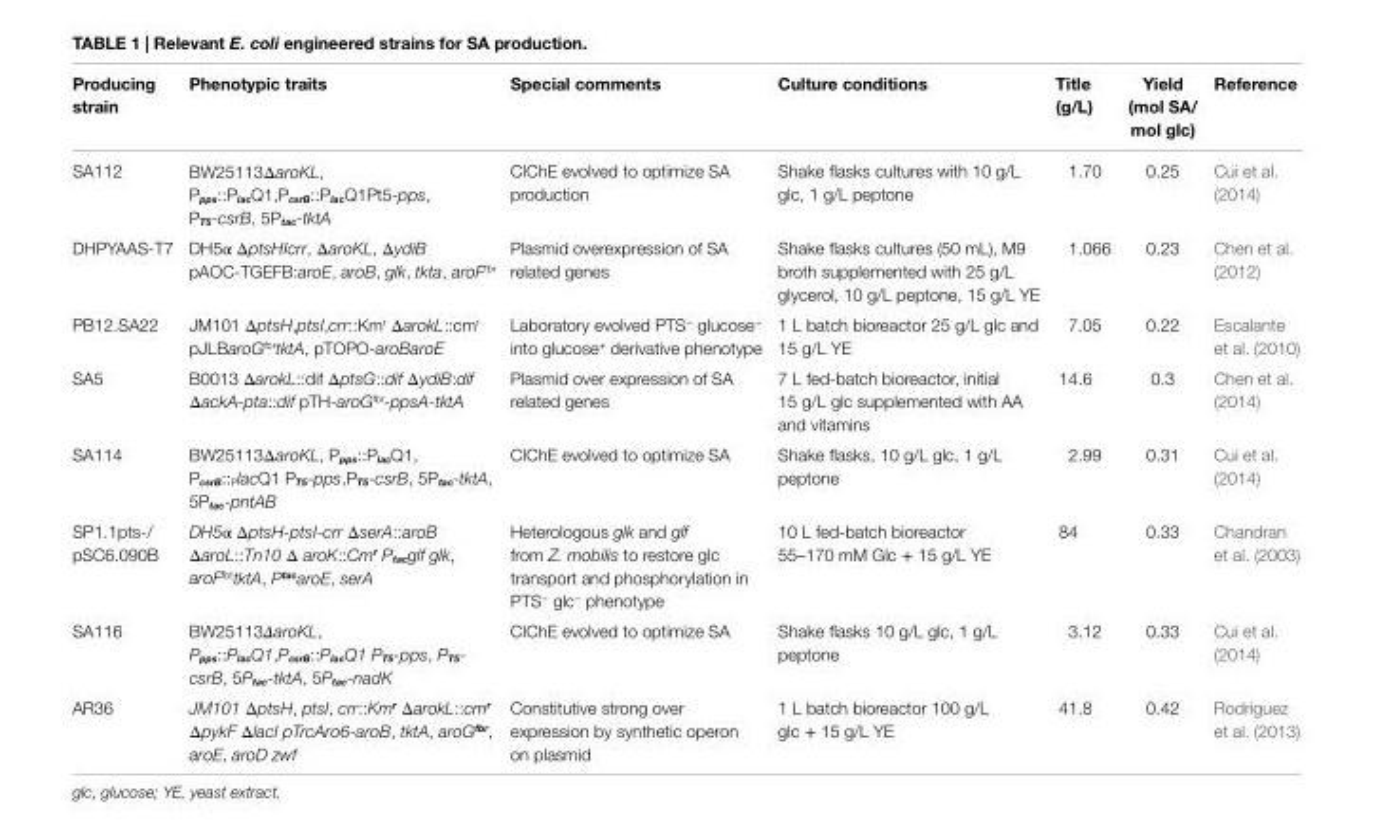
<table><thead><tr><td>Producing strain</td><td>Phenotypic traits</td><td>Special comments</td><td>Culture conditions</td><td>Title (g/L)</td><td>Yield (mol SA/ mol glc)</td><td>Reference</td></tr></thead><tbody><tr><td>SA112</td><td>BW25113ΔaroKL, P<sub>pps</sub>::P<sub>lac</sub>Q1,P<sub>csrB</sub>::P<sub>lac</sub>Q1Pt5-pps, P<sub>T5</sub>-csrB, 5P<sub>tac</sub>-tktA</td><td>CIChE evolved to optimize SA production</td><td>Shake flasks cultures with 10 g/L glc, 1 g/L peptone</td><td>1.70</td><td>0.25</td><td>Cui et al. (2014)</td></tr><tr><td>DHPYAAS-T7</td><td>DH5α ΔptsHIcrr, ΔaroKL, ΔydiB pAOC-TGEFB:aroE, aroB, glk, tkta, aroF<sup>fbr</sup></td><td>Plasmid overexpression of SA related genes</td><td>Shake flasks cultures (50 mL), M9 broth supplemented with 25 g/L glycerol, 10 g/L peptone, 15 g/L YE</td><td>1.066</td><td>0.23</td><td>Chen et al. (2012)</td></tr><tr><td>PB12.SA22</td><td>JM101 ΔptsH,ptsI,crr::Km<sup>r</sup> ΔarokL::cm<sup>r</sup> pJLBaroG<sup>fbr</sup>tktA, pTOPO-aroBaroE</td><td>Laboratory evolved PTS<sup>−</sup> glucose<sup>−</sup> into glucose<sup>+</sup> derivative phenotype</td><td>1 L batch bioreactor 25 g/L glc and 15 g/L YE</td><td>7.05</td><td>0.22</td><td>Escalante et al. (2010)</td></tr><tr><td>SA5</td><td>B0013 ΔarokL::dif ΔptsG::dif ΔydiB:dif ΔackA-pta::dif pTH-aroG<sup>fbr</sup>-ppsA-tktA</td><td>Plasmid over expression of SA related genes</td><td>7 L fed-batch bioreactor, initial 15 g/L glc supplemented with AA and vitamins</td><td>14.6</td><td>0.3</td><td>Chen et al. (2014)</td></tr><tr><td>SA114</td><td>BW25113ΔaroKL, P<sub>pps</sub>::P<sub>lac</sub>Q1, P<sub>csrB</sub>::<sub>P</sub>lacQ1 P<sub>T5</sub>-pps,P<sub>T5</sub>-csrB, 5P<sub>tac</sub>-tktA, 5P<sub>tac</sub>-pntAB</td><td>CIChE evolved to optimize SA</td><td>Shake flasks, 10 g/L glc, 1 g/L peptone</td><td>2.99</td><td>0.31</td><td>Cui et al. (2014)</td></tr><tr><td>SP1.1pts-/ pSC6.090B</td><td>DH5α ΔptsH-ptsI-crr ΔserA::aroB ΔaroL::Tn10 Δ aroK::Cm<sup>r</sup> P<sub>tac</sub>glf glk, aroF<sup>fbt</sup>tktA, P<sup>tac</sup>aroE, serA</td><td>Heterologous glk and glf from Z. mobilis to restore glc transport and phosphorylation in PTS<sup>−</sup> glc<sup>−</sup> phenotype</td><td>10 L fed-batch bioreactor 55–170 mM Glc + 15 g/L YE</td><td>84</td><td>0.33</td><td>Chandran et al. (2003)</td></tr><tr><td>SA116</td><td>BW25113ΔaroKL, P<sub>pps</sub>::P<sub>lac</sub>Q1,P<sub>csrB</sub>::P<sub>lac</sub>Q1 P<sub>T5</sub>-pps, P<sub>T5</sub>- csrB, 5P<sub>tac</sub>-tktA, 5P<sub>tac</sub>-nadK</td><td>CIChE evolved to optimize SA</td><td>Shake flasks 10 g/L glc, 1 g/L peptone</td><td>3.12</td><td>0.33</td><td>Cui et al. (2014)</td></tr><tr><td>AR36</td><td>JM101 ΔptsH, ptsI, crr::Km<sup>r</sup> ΔarokL::cm<sup>r</sup> ΔpykF ΔlacI pTrcAro6-aroB, tktA, aroG<sup>fbr</sup>, aroE, aroD zwf</td><td>Constitutive strong over expression by synthetic operon on plasmid</td><td>1 L batch bioreactor 100 g/L glc + 15 g/L YE</td><td>41.8</td><td>0.42</td><td>Rodriguez et al. (2013)</td></tr></tbody></table>